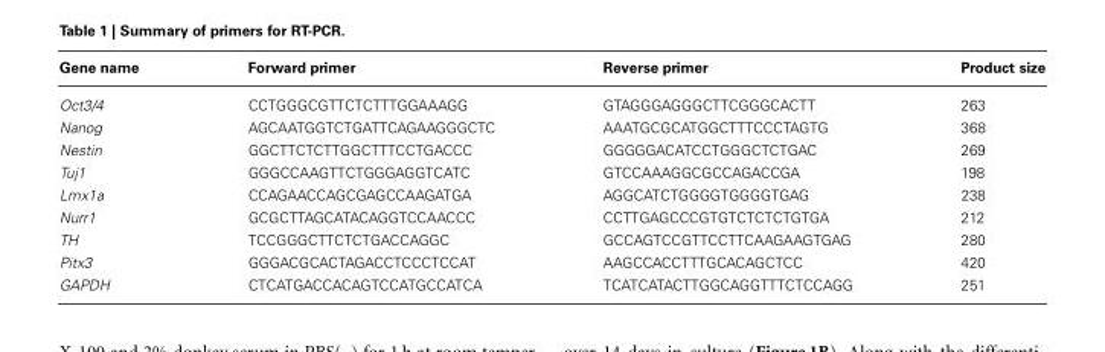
<table><thead><tr><td>Gene name</td><td>Forward primer</td><td>Reverse primer</td><td>Product size</td></tr></thead><tbody><tr><td>Oct3/4</td><td>CCTGGGCGTTCTCTTTGGAAAGG</td><td>GTAGGGAGGGCTTCGGGCACTT</td><td>263</td></tr><tr><td>Nanog</td><td>AGCAATGGTCTGATTCAGAAGGGCTC</td><td>AAATGCGCATGGCTTTCCCTAGTG</td><td>368</td></tr><tr><td>Nestin</td><td>GGCTTCTCTTGGCTTTCCTGACCC</td><td>GGGGGACATCCTGGGCTCTGAC</td><td>269</td></tr><tr><td>Tuj1</td><td>GGGCCAAGTTCTGGGAGGTCATC</td><td>GTCCAAAGGCGCCAGACCGA</td><td>198</td></tr><tr><td>Lmx1a</td><td>CCAGAACCAGCGAGCCAAGATGA</td><td>AGGCATCTGGGGTGGGGTGAG</td><td>238</td></tr><tr><td>Nurr1</td><td>GCGCTTAGCATACAGGTCCAACCC</td><td>CCTTGAGCCCGTGTCTCTCTGTGA</td><td>212</td></tr><tr><td>TH</td><td>TCCGGGCTTCTCTGACCAGGC</td><td>GCCAGTCCGTTCCTTCAAGAAGTGAG</td><td>280</td></tr><tr><td>Pitx3</td><td>GGGACGCACTAGACCTCCCTCCAT</td><td>AAGCCACCTTTGCACAGCTCC</td><td>420</td></tr><tr><td>GAPDH</td><td>CTCATGACCACAGTCCATGCCATCA</td><td>TCATCATACTTGGCAGGTTTCTCCAGG</td><td>251</td></tr></tbody></table>